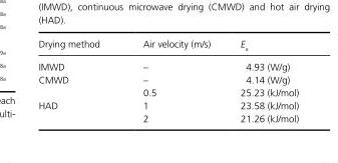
<table><thead><tr><td>Drying method</td><td>Air velocity (m/s)</td><td>E<sub>a</sub></td></tr></thead><tbody><tr><td>IMWD</td><td>–</td><td>4.93 (W/g)</td></tr><tr><td rowspan="2">CMWD</td><td>–</td><td>4.14 (W/g)</td></tr><tr><td>0.5</td><td>25.23 (kJ/mol)</td></tr><tr><td rowspan="2">HAD</td><td>1</td><td>23.58 (kJ/mol)</td></tr><tr><td>2</td><td>21.26 (kJ/mol)</td></tr></tbody></table>